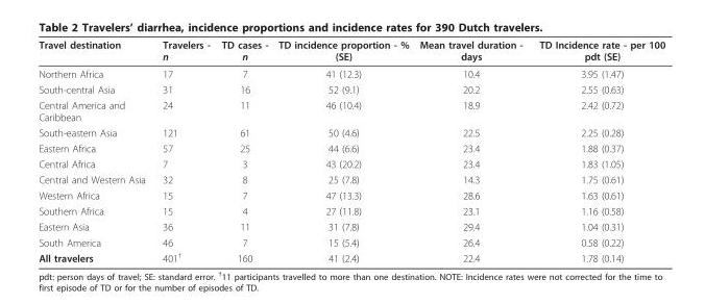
<table><thead><tr><td>Travel destination</td><td>Travelers - n</td><td>TD cases - n</td><td>TD incidence proportion - % (SE)</td><td>Mean travel duration - days</td><td>TD Incidence rate - per 100 pdt (SE)</td></tr></thead><tbody><tr><td>Northern Africa</td><td>17</td><td>7</td><td>41 (12.3)</td><td>10.4</td><td>3.95 (1.47)</td></tr><tr><td>South-central Asia</td><td>31</td><td>16</td><td>52 (9.1)</td><td>20.2</td><td>2.55 (0.63)</td></tr><tr><td>Central America and Caribbean</td><td>24</td><td>11</td><td>46 (10.4)</td><td>18.9</td><td>2.42 (0.72)</td></tr><tr><td>South-eastern Asia</td><td>121</td><td>61</td><td>50 (4.6)</td><td>22.5</td><td>2.25 (0.28)</td></tr><tr><td>Eastern Africa</td><td>57</td><td>25</td><td>44 (6.6)</td><td>23.4</td><td>1.88 (0.37)</td></tr><tr><td>Central Africa</td><td>7</td><td>3</td><td>43 (20.2)</td><td>23.4</td><td>1.83 (1.05)</td></tr><tr><td>Central and Western Asia</td><td>32</td><td>8</td><td>25 (7.8)</td><td>14.3</td><td>1.75 (0.61)</td></tr><tr><td>Western Africa</td><td>15</td><td>7</td><td>47 (13.3)</td><td>28.6</td><td>1.63 (0.61)</td></tr><tr><td>Southern Africa</td><td>15</td><td>4</td><td>27 (11.8)</td><td>23.1</td><td>1.16 (0.58)</td></tr><tr><td>Eastern Asia</td><td>36</td><td>11</td><td>31 (7.8)</td><td>29.4</td><td>1.04 (0.31)</td></tr><tr><td>South America</td><td>46</td><td>7</td><td>15 (5.4)</td><td>26.4</td><td>0.58 (0.22)</td></tr><tr><td>All travelers</td><td>401<sup>†</sup></td><td>160</td><td>41 (2.4)</td><td>22.4</td><td>1.78 (0.14)</td></tr></tbody></table>